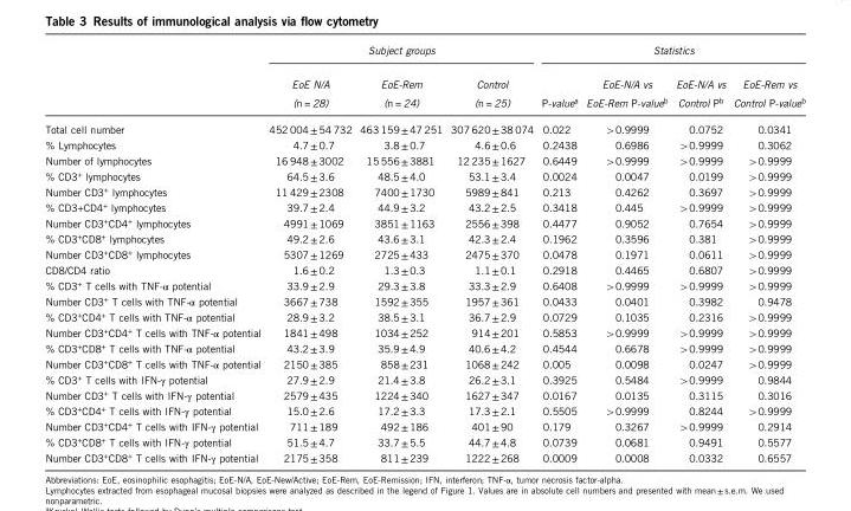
<table><thead><tr><td rowspan="2"></td><td colspan="3">Subject groups</td><td colspan="4">Statistics</td></tr><tr><td>EoE N/A (n = 28)</td><td>EoE-Rem (n = 24)</td><td>Control (n = 25)</td><td>P-value<sup>a</sup></td><td>EoE-N/A vs EoE-Rem P-value<sup>b</sup></td><td>EoE-N/A vs Control P<sup>b</sup></td><td>EoE-Rem vs Control P-value<sup>b</sup></td></tr></thead><tbody><tr><td>Total cell number</td><td>452 004 ± 54 732</td><td>463 159± 47 251</td><td>307 620± 38 074</td><td>0.022</td><td>&gt;0.9999</td><td>0.0752</td><td>0.0341</td></tr><tr><td>% Lymphocytes</td><td>4.7 ± 0.7</td><td>3.8± 0.7</td><td>4.6± 0.6</td><td>0.2438</td><td>0.6986</td><td>&gt;0.9999</td><td>0.3062</td></tr><tr><td>Number of lymphocytes</td><td>16 948 ± 3002</td><td>15 556± 3881</td><td>12 235± 1627</td><td>0.6449</td><td>&gt;0.9999</td><td>&gt;0.9999</td><td>&gt;0.9999</td></tr><tr><td>% CD3<sup>+</sup> lymphocytes</td><td>64.5± 3.6</td><td>48.5± 4.0</td><td>53.1± 3.4</td><td>0.0024</td><td>0.0047</td><td>0.0199</td><td>&gt;0.9999</td></tr><tr><td>Number CD3<sup>+</sup> lymphocytes</td><td>11 429 ± 2308</td><td>7400± 1730</td><td>5989± 841</td><td>0.213</td><td>0.4262</td><td>0.3697</td><td>&gt;0.9999</td></tr><tr><td>% CD3+CD4<sup>+</sup> lymphocytes</td><td>39.7± 2.4</td><td>44.9± 3.2</td><td>43.2± 2.5</td><td>0.3418</td><td>0.445</td><td>&gt;0.9999</td><td>&gt;0.9999</td></tr><tr><td>Number CD3<sup>+</sup>CD4<sup>+</sup> lymphocytes</td><td>4991 ± 1069</td><td>3851± 1163</td><td>2556± 398</td><td>0.4477</td><td>0.9052</td><td>0.7654</td><td>&gt;0.9999</td></tr><tr><td>% CD3<sup>+</sup>CD8<sup>+</sup> lymphocytes</td><td>49.2± 2.6</td><td>43.6± 3.1</td><td>42.3± 2.4</td><td>0.1962</td><td>0.3596</td><td>0.381</td><td>&gt;0.9999</td></tr><tr><td>Number CD3<sup>+</sup>CD8<sup>+</sup> lymphocytes</td><td>5307 ± 1269</td><td>2725± 433</td><td>2475± 370</td><td>0.0478</td><td>0.1971</td><td>0.0611</td><td>&gt;0.9999</td></tr><tr><td>CD8/CD4 ratio</td><td>1.6 ± 0.2</td><td>1.3± 0.3</td><td>1.1± 0.1</td><td>0.2918</td><td>0.4465</td><td>0.6807</td><td>&gt;0.9999</td></tr><tr><td>% CD3<sup>+</sup> T cells with TNF-α potential</td><td>33.9± 2.9</td><td>29.3± 3.8</td><td>33.3± 2.9</td><td>0.6408</td><td>&gt;0.9999</td><td>&gt;0.9999</td><td>&gt;0.9999</td></tr><tr><td>Number CD3<sup>+</sup> T cells with TNF-α potential</td><td>3667 ± 738</td><td>1592± 355</td><td>1957± 361</td><td>0.0433</td><td>0.0401</td><td>0.3982</td><td>0.9478</td></tr><tr><td>% CD3<sup>+</sup>CD4<sup>+</sup> T cells with TNF-α potential</td><td>28.9± 3.2</td><td>38.5± 3.1</td><td>36.7± 2.9</td><td>0.0729</td><td>0.1035</td><td>0.2316</td><td>&gt;0.9999</td></tr><tr><td>Number CD3<sup>+</sup>CD4<sup>+</sup> T cells with TNF-α potential</td><td>1841 ± 498</td><td>1034± 252</td><td>914± 201</td><td>0.5853</td><td>&gt;0.9999</td><td>&gt;0.9999</td><td>&gt;0.9999</td></tr><tr><td>% CD3<sup>+</sup>CD8<sup>+</sup> T cells with TNF-α potential</td><td>43.2± 3.9</td><td>35.9± 4.9</td><td>40.6± 4.2</td><td>0.4544</td><td>0.6678</td><td>&gt;0.9999</td><td>&gt;0.9999</td></tr><tr><td>Number CD3<sup>+</sup>CD8<sup>+</sup> T cells with TNF-α potential</td><td>2150 ± 385</td><td>858± 231</td><td>1068± 242</td><td>0.005</td><td>0.0098</td><td>0.0247</td><td>&gt;0.9999</td></tr><tr><td>% CD3<sup>+</sup> T cells with IFN-γ potential</td><td>27.9± 2.9</td><td>21.4± 3.8</td><td>26.2± 3.1</td><td>0.3925</td><td>0.5484</td><td>&gt;0.9999</td><td>0.9844</td></tr><tr><td>Number CD3<sup>+</sup> T cells with IFN-γ potential</td><td>2579 ± 435</td><td>1224± 340</td><td>1627± 347</td><td>0.0167</td><td>0.0135</td><td>0.3115</td><td>0.3016</td></tr><tr><td>% CD3<sup>+</sup>CD4<sup>+</sup> T cells with IFN-γ potential</td><td>15.0± 2.6</td><td>17.2± 3.3</td><td>17.3± 2.1</td><td>0.5505</td><td>&gt;0.9999</td><td>0.8244</td><td>&gt;0.9999</td></tr><tr><td>Number CD3<sup>+</sup>CD4<sup>+</sup> T cells with IFN-γ potential</td><td>711 ± 189</td><td>492± 186</td><td>401± 90</td><td>0.179</td><td>0.3267</td><td>&gt;0.9999</td><td>0.2914</td></tr><tr><td>% CD3<sup>+</sup>CD8<sup>+</sup> T cells with IFN-γ potential</td><td>51.5± 4.7</td><td>33.7± 5.5</td><td>44.7± 4.8</td><td>0.0739</td><td>0.0681</td><td>0.9491</td><td>0.5577</td></tr><tr><td>Number CD3<sup>+</sup>CD8<sup>+</sup> T cells with IFN-γ potential</td><td>2175 ± 358</td><td>811± 239</td><td>1222± 268</td><td>0.0009</td><td>0.0008</td><td>0.0332</td><td>0.6557</td></tr></tbody></table>